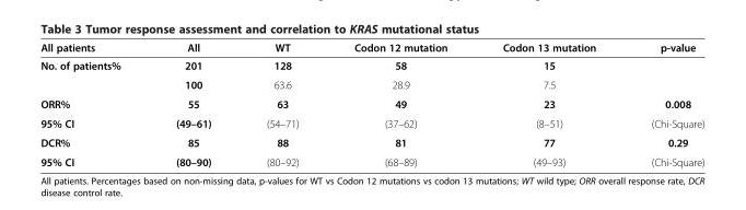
<table><thead><tr><td>All patients</td><td>All</td><td>WT</td><td>Codon 12 mutation</td><td>Codon 13 mutation</td><td>p-value</td></tr></thead><tbody><tr><td rowspan="2">No. of patients%</td><td>201</td><td>128</td><td>58</td><td>15</td><td rowspan="2"></td></tr><tr><td>100</td><td>63.6</td><td>28.9</td><td>7.5</td></tr><tr><td>ORR%</td><td>55</td><td>63</td><td>49</td><td>23</td><td>0.008</td></tr><tr><td>95% CI</td><td>(49–61)</td><td>(54–71)</td><td>(37–62)</td><td>(8–51)</td><td>(Chi-Square)</td></tr><tr><td>DCR%</td><td>85</td><td>88</td><td>81</td><td>77</td><td>0.29</td></tr><tr><td>95% CI</td><td>(80–90)</td><td>(80–92)</td><td>(68–89)</td><td>(49–93)</td><td>(Chi-Square)</td></tr></tbody></table>